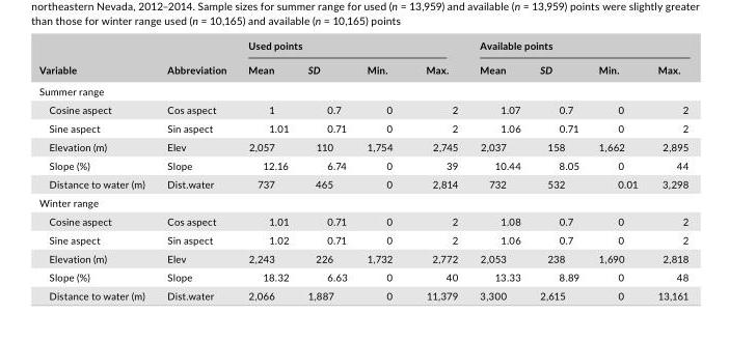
<table><thead><tr><td rowspan="2">Variable</td><td rowspan="2">Abbreviation</td><td colspan="4">Used points</td><td colspan="4">Available points</td></tr><tr><td>Mean</td><td>SD</td><td>Min.</td><td>Max.</td><td>Mean</td><td>SD</td><td>Min.</td><td>Max.</td></tr></thead><tbody><tr><td colspan="10">Summer range</td></tr><tr><td>Cosine aspect</td><td>Cos aspect</td><td>1</td><td>0.7</td><td>0</td><td>2</td><td>1.07</td><td>0.7</td><td>0</td><td>2</td></tr><tr><td>Sine aspect</td><td>Sin aspect</td><td>1.01</td><td>0.71</td><td>0</td><td>2</td><td>1.06</td><td>0.71</td><td>0</td><td>2</td></tr><tr><td>Elevation (m)</td><td>Elev</td><td>2,057</td><td>110</td><td>1,754</td><td>2,745</td><td>2,037</td><td>158</td><td>1,662</td><td>2,895</td></tr><tr><td>Slope (%)</td><td>Slope</td><td>12.16</td><td>6.74</td><td>0</td><td>39</td><td>10.44</td><td>8.05</td><td>0</td><td>44</td></tr><tr><td>Distance to water (m)</td><td>Dist.water</td><td>737</td><td>465</td><td>0</td><td>2,814</td><td>732</td><td>532</td><td>0.01</td><td>3,298</td></tr><tr><td colspan="10">Winter range</td></tr><tr><td>Cosine aspect</td><td>Cos aspect</td><td>1.01</td><td>0.71</td><td>0</td><td>2</td><td>1.08</td><td>0.7</td><td>0</td><td>2</td></tr><tr><td>Sine aspect</td><td>Sin aspect</td><td>1.02</td><td>0.71</td><td>0</td><td>2</td><td>1.06</td><td>0.7</td><td>0</td><td>2</td></tr><tr><td>Elevation (m)</td><td>Elev</td><td>2,243</td><td>226</td><td>1,732</td><td>2,772</td><td>2,053</td><td>238</td><td>1,690</td><td>2,818</td></tr><tr><td>Slope (%)</td><td>Slope</td><td>18.32</td><td>6.63</td><td>0</td><td>40</td><td>13.33</td><td>8.89</td><td>0</td><td>48</td></tr><tr><td>Distance to water (m)</td><td>Dist.water</td><td>2,066</td><td>1,887</td><td>0</td><td>11,379</td><td>3,300</td><td>2,615</td><td>0</td><td>13,161</td></tr></tbody></table>